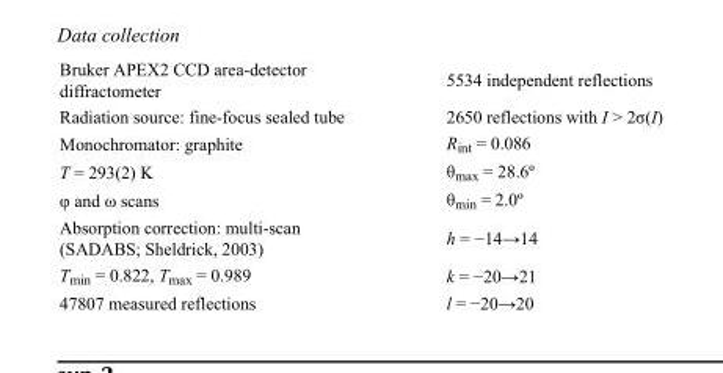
<table><tbody><tr><td>Bruker APEX2 CCD area-detector diffractometer</td><td>5534 independent reflections</td></tr><tr><td>Radiation source: fine-focus sealed tube</td><td>2650 reflections with I &gt; 2σ(I)</td></tr><tr><td>Monochromator: graphite</td><td>R<sub>int</sub> = 0.086</td></tr><tr><td>T = 293(2) K</td><td>θ<sub>max</sub> = 28.6º</td></tr><tr><td>φ and ω scans</td><td>θ<sub>min</sub> = 2.0º</td></tr><tr><td>Absorption correction: multi-scan (SADABS; Sheldrick, 2003)</td><td>h = −14→14</td></tr><tr><td>T<sub>min</sub> = 0.822, T<sub>max</sub> = 0.989</td><td>k = −20→21</td></tr><tr><td>47807 measured reflections</td><td>l = −20→20</td></tr></tbody></table>